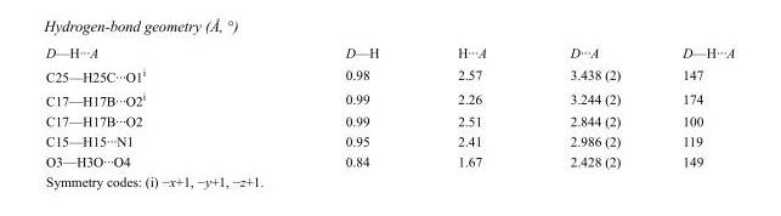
<table><tbody><tr><td>D—H···A</td><td>D—H</td><td>H···A</td><td>D···A</td><td>D—H···A</td></tr><tr><td>C25—H25C···O1<sup>i</sup></td><td>0.98</td><td>2.57</td><td>3.438 (2)</td><td>147</td></tr><tr><td>C17—H17B···O2<sup>i</sup></td><td>0.99</td><td>2.26</td><td>3.244 (2)</td><td>174</td></tr><tr><td>C17—H17B···O2</td><td>0.99</td><td>2.51</td><td>2.844 (2)</td><td>100</td></tr><tr><td>C15—H15···N1</td><td>0.95</td><td>2.41</td><td>2.986 (2)</td><td>119</td></tr><tr><td>O3—H3O···O4</td><td>0.84</td><td>1.67</td><td>2.428 (2)</td><td>149</td></tr></tbody></table>